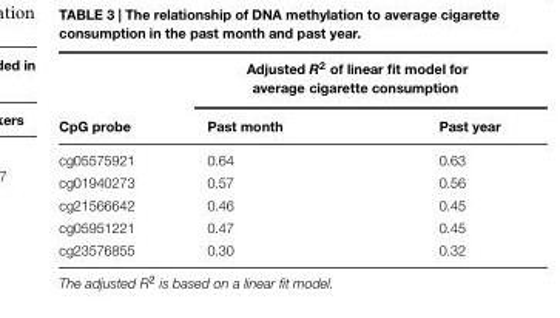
<table><thead><tr><td rowspan="2">CpG probe</td><td colspan="2">Adjusted R<sup>2</sup> of linear fit model for average cigarette consumption</td></tr><tr><td>Past month</td><td>Past year</td></tr></thead><tbody><tr><td>cg05575921</td><td>0.64</td><td>0.63</td></tr><tr><td>cg01940273</td><td>0.57</td><td>0.56</td></tr><tr><td>cg21566642</td><td>0.46</td><td>0.45</td></tr><tr><td>cg05951221</td><td>0.47</td><td>0.45</td></tr><tr><td>cg23576855</td><td>0.30</td><td>0.32</td></tr></tbody></table>